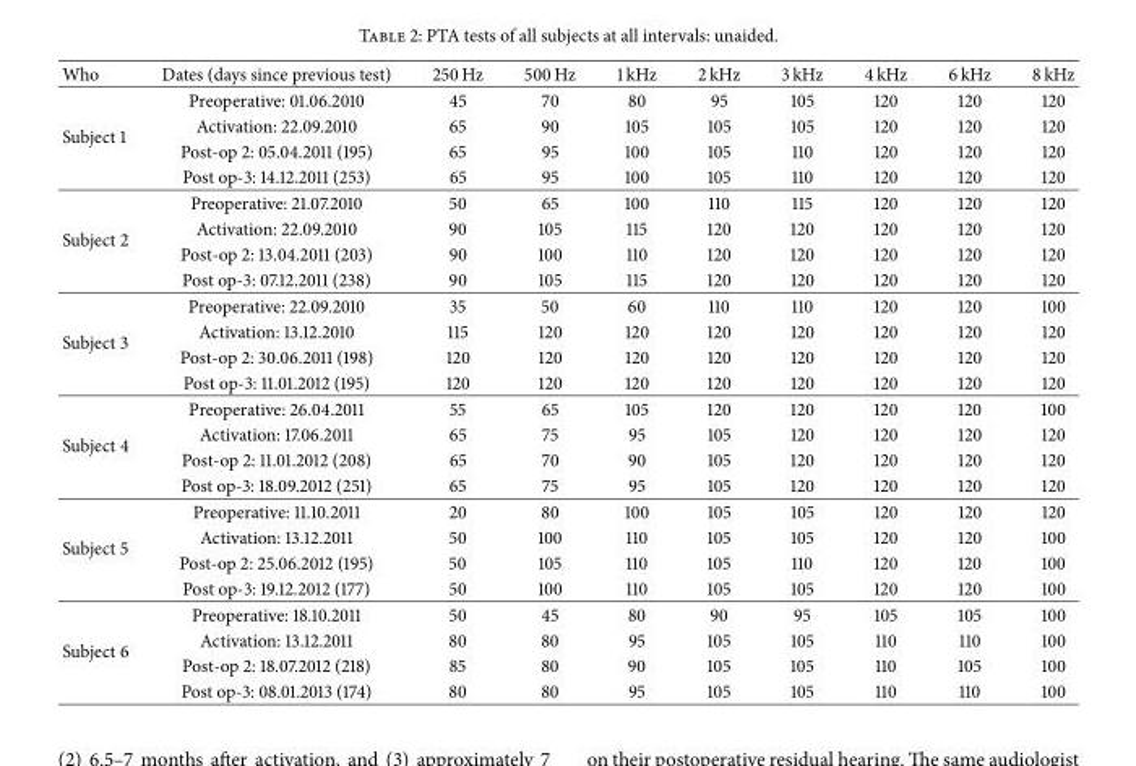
<table><thead><tr><td>Who</td><td>Dates (days since previous test)</td><td>250 Hz</td><td>500 Hz</td><td>1 kHz</td><td>2 kHz</td><td>3 kHz</td><td>4 kHz</td><td>6 kHz</td><td>8 kHz</td></tr></thead><tbody><tr><td rowspan="4">Subject 1</td><td>Preoperative: 01.06.2010</td><td>45</td><td>70</td><td>80</td><td>95</td><td>105</td><td>120</td><td>120</td><td>120</td></tr><tr><td>Activation: 22.09.2010</td><td>65</td><td>90</td><td>105</td><td>105</td><td>105</td><td>120</td><td>120</td><td>120</td></tr><tr><td>Post-op 2: 05.04.2011 (195)</td><td>65</td><td>95</td><td>100</td><td>105</td><td>110</td><td>120</td><td>120</td><td>120</td></tr><tr><td>Post op-3: 14.12.2011 (253)</td><td>65</td><td>95</td><td>100</td><td>105</td><td>110</td><td>120</td><td>120</td><td>120</td></tr><tr><td rowspan="4">Subject 2</td><td>Preoperative: 21.07.2010</td><td>50</td><td>65</td><td>100</td><td>110</td><td>115</td><td>120</td><td>120</td><td>120</td></tr><tr><td>Activation: 22.09.2010</td><td>90</td><td>105</td><td>115</td><td>120</td><td>120</td><td>120</td><td>120</td><td>120</td></tr><tr><td>Post-op 2: 13.04.2011 (203)</td><td>90</td><td>100</td><td>110</td><td>120</td><td>120</td><td>120</td><td>120</td><td>120</td></tr><tr><td>Post op-3: 07.12.2011 (238)</td><td>90</td><td>105</td><td>115</td><td>120</td><td>120</td><td>120</td><td>120</td><td>120</td></tr><tr><td rowspan="4">Subject 3</td><td>Preoperative: 22.09.2010</td><td>35</td><td>50</td><td>60</td><td>110</td><td>110</td><td>120</td><td>120</td><td>100</td></tr><tr><td>Activation: 13.12.2010</td><td>115</td><td>120</td><td>120</td><td>120</td><td>120</td><td>120</td><td>120</td><td>120</td></tr><tr><td>Post-op 2: 30.06.2011 (198)</td><td>120</td><td>120</td><td>120</td><td>120</td><td>120</td><td>120</td><td>120</td><td>120</td></tr><tr><td>Post op-3: 11.01.2012 (195)</td><td>120</td><td>120</td><td>120</td><td>120</td><td>120</td><td>120</td><td>120</td><td>120</td></tr><tr><td rowspan="4">Subject 4</td><td>Preoperative: 26.04.2011</td><td>55</td><td>65</td><td>105</td><td>120</td><td>120</td><td>120</td><td>120</td><td>100</td></tr><tr><td>Activation: 17.06.2011</td><td>65</td><td>75</td><td>95</td><td>105</td><td>120</td><td>120</td><td>120</td><td>120</td></tr><tr><td>Post-op 2: 11.01.2012 (208)</td><td>65</td><td>70</td><td>90</td><td>105</td><td>120</td><td>120</td><td>120</td><td>120</td></tr><tr><td>Post op-3: 18.09.2012 (251)</td><td>65</td><td>75</td><td>95</td><td>105</td><td>120</td><td>120</td><td>120</td><td>120</td></tr><tr><td rowspan="4">Subject 5</td><td>Preoperative: 11.10.2011</td><td>20</td><td>80</td><td>100</td><td>105</td><td>105</td><td>120</td><td>120</td><td>120</td></tr><tr><td>Activation: 13.12.2011</td><td>50</td><td>100</td><td>110</td><td>105</td><td>105</td><td>120</td><td>120</td><td>100</td></tr><tr><td>Post-op 2: 25.06.2012 (195)</td><td>50</td><td>105</td><td>110</td><td>105</td><td>110</td><td>120</td><td>120</td><td>100</td></tr><tr><td>Post op-3: 19.12.2012 (177)</td><td>50</td><td>100</td><td>110</td><td>105</td><td>105</td><td>120</td><td>120</td><td>100</td></tr><tr><td rowspan="4">Subject 6</td><td>Preoperative: 18.10.2011</td><td>50</td><td>45</td><td>80</td><td>90</td><td>95</td><td>105</td><td>105</td><td>100</td></tr><tr><td>Activation: 13.12.2011</td><td>80</td><td>80</td><td>95</td><td>105</td><td>105</td><td>110</td><td>110</td><td>100</td></tr><tr><td>Post-op 2: 18.07.2012 (218)</td><td>85</td><td>80</td><td>90</td><td>105</td><td>105</td><td>110</td><td>105</td><td>100</td></tr><tr><td>Post op-3: 08.01.2013 (174)</td><td>80</td><td>80</td><td>95</td><td>105</td><td>105</td><td>110</td><td>110</td><td>100</td></tr></tbody></table>